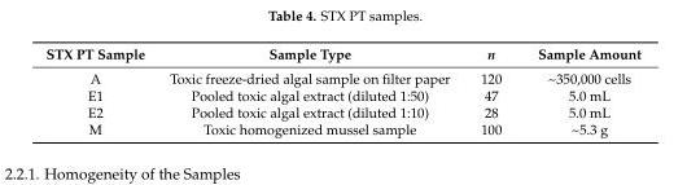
<table><thead><tr><td>STX PT Sample</td><td>Sample Type</td><td>n</td><td>Sample Amount</td></tr></thead><tbody><tr><td>A</td><td>Toxic freeze-dried algal sample on filter paper</td><td>120</td><td>~350,000 cells</td></tr><tr><td>E1</td><td>Pooled toxic algal extract (diluted 1:50)</td><td>47</td><td>5.0 mL</td></tr><tr><td>E2</td><td>Pooled toxic algal extract (diluted 1:10)</td><td>28</td><td>5.0 mL</td></tr><tr><td>M</td><td>Toxic homogenized mussel sample</td><td>100</td><td>~5.3 g</td></tr></tbody></table>